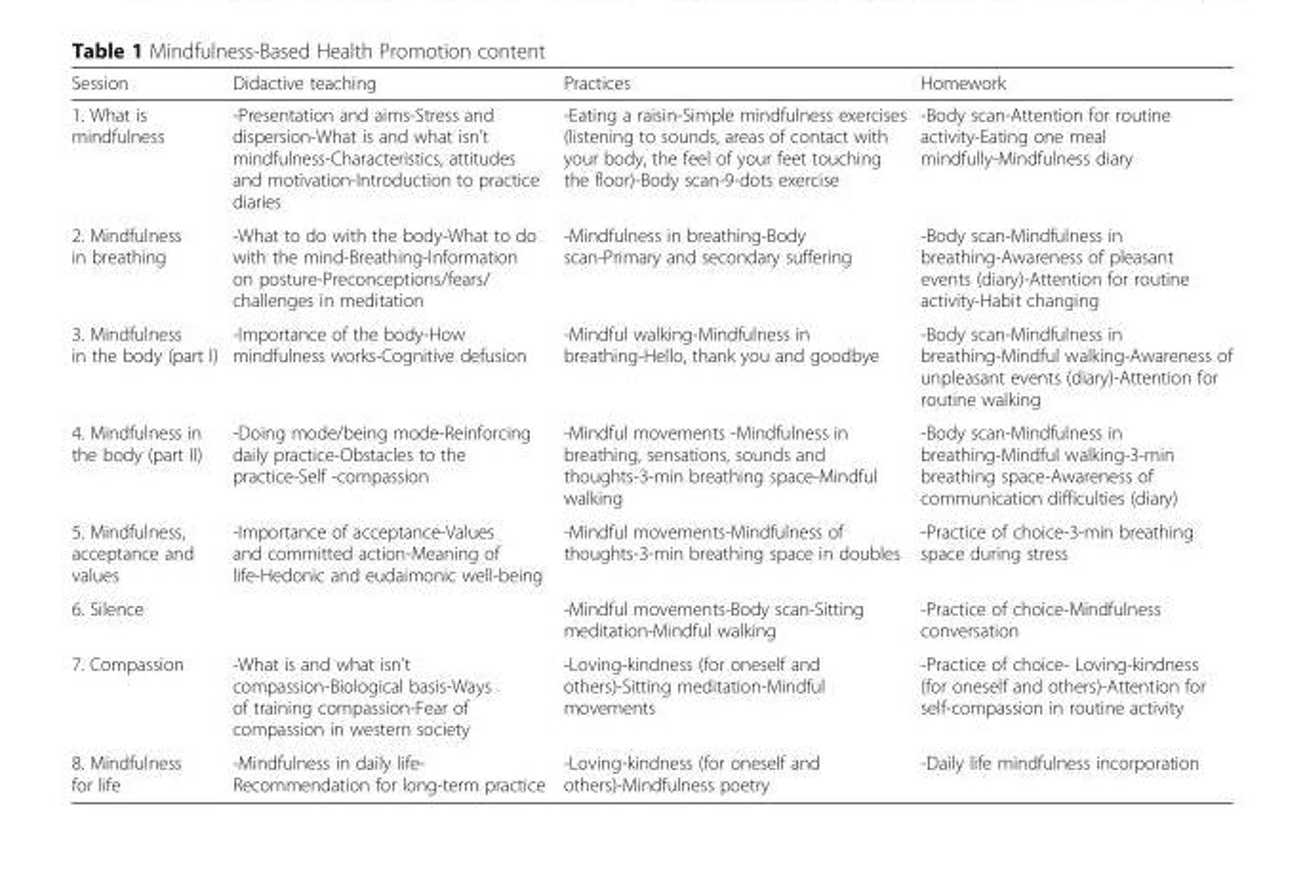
<table><thead><tr><td>Session</td><td>Didactive teaching</td><td>Practices</td><td>Homework</td></tr></thead><tbody><tr><td>1. What is mindfulness</td><td>-Presentation and aims-Stress and dispersion-What is and what isn’t mindfulness-Characteristics, attitudes and motivation-Introduction to practice diaries</td><td>-Eating a raisin-Simple mindfulness exercises (listening to sounds, areas of contact with your body, the feel of your feet touching the floor)-Body scan-9-dots exercise</td><td>-Body scan-Attention for routine activity-Eating one meal mindfully-Mindfulness diary</td></tr><tr><td>2. Mindfulness in breathing</td><td>-What to do with the body-What to do with the mind-Breathing-Information on posture-Preconceptions/fears/ challenges in meditation</td><td>-Mindfulness in breathing-Body scan-Primary and secondary suffering</td><td>-Body scan-Mindfulness in breathing-Awareness of pleasant events (diary)-Attention for routine activity-Habit changing</td></tr><tr><td>3. Mindfulness in the body (part I)</td><td>-Importance of the body-How mindfulness works-Cognitive defusion</td><td>-Mindful walking-Mindfulness in breathing-Hello, thank you and goodbye</td><td>-Body scan-Mindfulness in breathing-Mindful walking-Awareness of unpleasant events (diary)-Attention for routine walking</td></tr><tr><td>4. Mindfulness in the body (part II)</td><td>-Doing mode/being mode-Reinforcing daily practice-Obstacles to the practice-Self -compassion</td><td>-Mindful movements -Mindfulness in breathing, sensations, sounds and thoughts-3-min breathing space-Mindful walking</td><td>-Body scan-Mindfulness in breathing-Mindful walking-3-min breathing space-Awareness of communication difficulties (diary)</td></tr><tr><td>5. Mindfulness, acceptance and values</td><td>-Importance of acceptance-Values and committed action-Meaning of life-Hedonic and eudaimonic well-being</td><td>-Mindful movements-Mindfulness of thoughts-3-min breathing space in doubles</td><td>-Practice of choice-3-min breathing space during stress</td></tr><tr><td>6. Silence</td><td></td><td>-Mindful movements-Body scan-Sitting meditation-Mindful walking</td><td>-Practice of choice-Mindfulness conversation</td></tr><tr><td>7. Compassion</td><td>-What is and what isn’t compassion-Biological basis-Ways of training compassion-Fear of compassion in western society</td><td>-Loving-kindness (for oneself and others)-Sitting meditation-Mindful movements</td><td>-Practice of choice- Loving-kindness (for oneself and others)-Attention for self-compassion in routine activity</td></tr><tr><td>8. Mindfulness for life</td><td>-Mindfulness in daily life- Recommendation for long-term practice</td><td>-Loving-kindness (for oneself and others)-Mindfulness poetry</td><td>-Daily life mindfulness incorporation</td></tr></tbody></table>